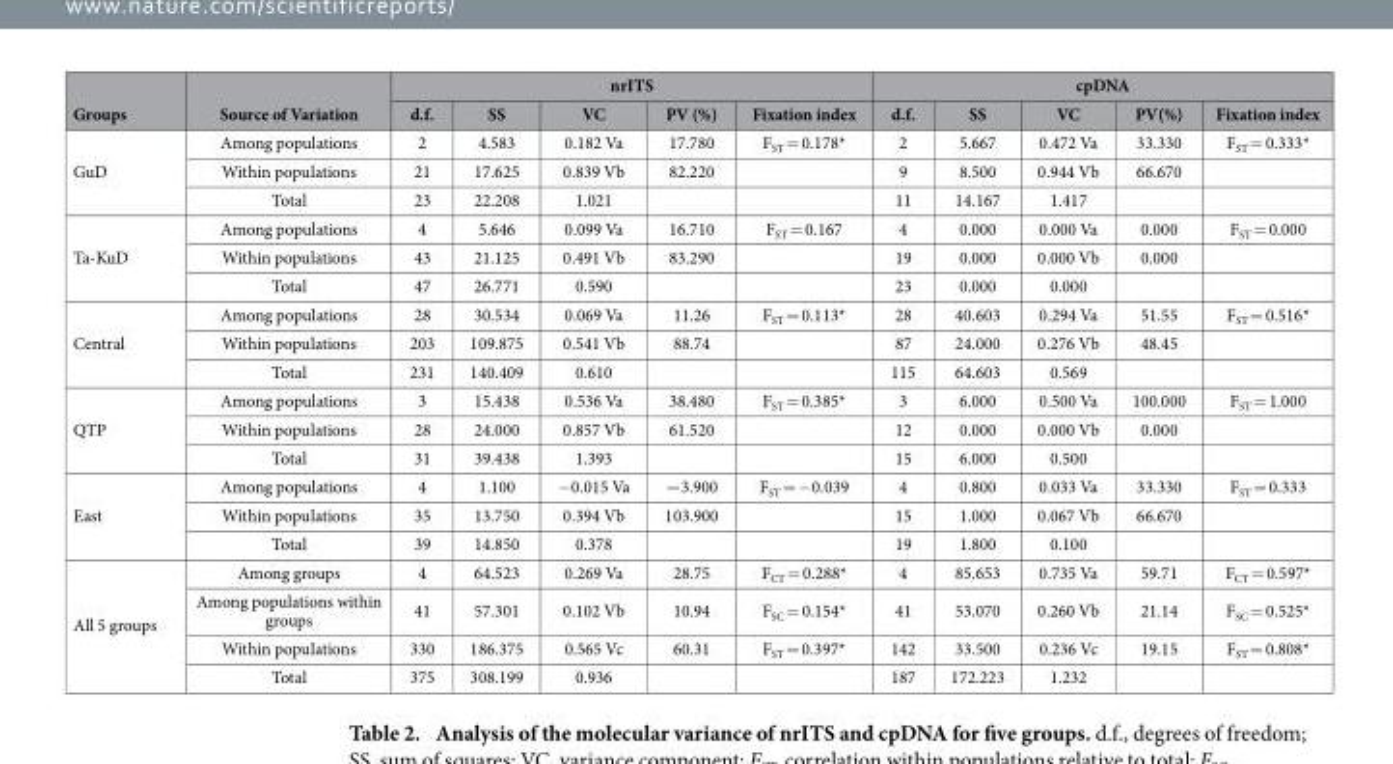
<table><thead><tr><td rowspan="2">Groups</td><td rowspan="2">Source of Variation</td><td colspan="5">nrITS</td><td colspan="5">cpDNA</td></tr><tr><td>d.f.</td><td>SS</td><td>VC</td><td>PV (%)</td><td>Fixation index</td><td>d.f.</td><td>SS</td><td>VC</td><td>PV(%)</td><td>Fixation index</td></tr></thead><tbody><tr><td rowspan="3">GuD</td><td>Among populations</td><td>2</td><td>4.583</td><td>0.182 Va</td><td>17.780</td><td>F<sub>ST</sub> = 0.178*</td><td>2</td><td>5.667</td><td>0.472 Va</td><td>33.330</td><td>F<sub>ST</sub> = 0.333*</td></tr><tr><td>Within populations</td><td>21</td><td>17.625</td><td>0.839 Vb</td><td>82.220</td><td></td><td>9</td><td>8.500</td><td>0.944 Vb</td><td>66.670</td><td></td></tr><tr><td>Total</td><td>23</td><td>22.208</td><td>1.021</td><td></td><td></td><td>11</td><td>14.167</td><td>1.417</td><td></td><td></td></tr><tr><td rowspan="3">Ta-KuD</td><td>Among populations</td><td>4</td><td>5.646</td><td>0.099 Va</td><td>16.710</td><td>F<sub>ST</sub> = 0.167</td><td>4</td><td>0.000</td><td>0.000 Va</td><td>0.000</td><td>F<sub>ST</sub> = 0.000</td></tr><tr><td>Within populations</td><td>43</td><td>21.125</td><td>0.491 Vb</td><td>83.290</td><td></td><td>19</td><td>0.000</td><td>0.000 Vb</td><td>0.000</td><td></td></tr><tr><td>Total</td><td>47</td><td>26.771</td><td>0.590</td><td></td><td></td><td>23</td><td>0.000</td><td>0.000</td><td></td><td></td></tr><tr><td rowspan="3">Central</td><td>Among populations</td><td>28</td><td>30.534</td><td>0.069 Va</td><td>11.26</td><td>F<sub>ST</sub> = 0.113*</td><td>28</td><td>40.603</td><td>0.294 Va</td><td>51.55</td><td>F<sub>ST</sub> = 0.516*</td></tr><tr><td>Within populations</td><td>203</td><td>109.875</td><td>0.541 Vb</td><td>88.74</td><td></td><td>87</td><td>24.000</td><td>0.276 Vb</td><td>48.45</td><td></td></tr><tr><td>Total</td><td>231</td><td>140.409</td><td>0.610</td><td></td><td></td><td>115</td><td>64.603</td><td>0.569</td><td></td><td></td></tr><tr><td rowspan="3">QTP</td><td>Among populations</td><td>3</td><td>15.438</td><td>0.536 Va</td><td>38.480</td><td>F<sub>ST</sub> = 0.385*</td><td>3</td><td>6.000</td><td>0.500 Va</td><td>100.000</td><td>F<sub>ST</sub> = 1.000</td></tr><tr><td>Within populations</td><td>28</td><td>24.000</td><td>0.857 Vb</td><td>61.520</td><td></td><td>12</td><td>0.000</td><td>0.000 Vb</td><td>0.000</td><td></td></tr><tr><td>Total</td><td>31</td><td>39.438</td><td>1.393</td><td></td><td></td><td>15</td><td>6.000</td><td>0.500</td><td></td><td></td></tr><tr><td rowspan="3">East</td><td>Among populations</td><td>4</td><td>1.100</td><td>− 0.015 Va</td><td>−3.900</td><td>F<sub>ST</sub> = − 0.039</td><td>4</td><td>0.800</td><td>0.033 Va</td><td>33.330</td><td>F<sub>ST</sub> = 0.333</td></tr><tr><td>Within populations</td><td>35</td><td>13.750</td><td>0.394 Vb</td><td>103.900</td><td></td><td>15</td><td>1.000</td><td>0.067 Vb</td><td>66.670</td><td></td></tr><tr><td>Total</td><td>39</td><td>14.850</td><td>0.378</td><td></td><td></td><td>19</td><td>1.800</td><td>0.100</td><td></td><td></td></tr><tr><td rowspan="4">All 5 groups</td><td>Among groups</td><td>4</td><td>64.523</td><td>0.269 Va</td><td>28.75</td><td>F<sub>CT</sub> = 0.288*</td><td>4</td><td>85.653</td><td>0.735 Va</td><td>59.71</td><td>F<sub>CT</sub> = 0.597*</td></tr><tr><td>Among populations within groups</td><td>41</td><td>57.301</td><td>0.102 Vb</td><td>10.94</td><td>F<sub>SC</sub> = 0.154*</td><td>41</td><td>53.070</td><td>0.260 Vb</td><td>21.14</td><td>F<sub>SC</sub> = 0.525*</td></tr><tr><td>Within populations</td><td>330</td><td>186.375</td><td>0.565 Vc</td><td>60.31</td><td>F<sub>ST</sub> = 0.397*</td><td>142</td><td>33.500</td><td>0.236 Vc</td><td>19.15</td><td>F<sub>ST</sub> = 0.808*</td></tr><tr><td>Total</td><td>375</td><td>308.199</td><td>0.936</td><td></td><td></td><td>187</td><td>172.223</td><td>1.232</td><td></td><td></td></tr></tbody></table>